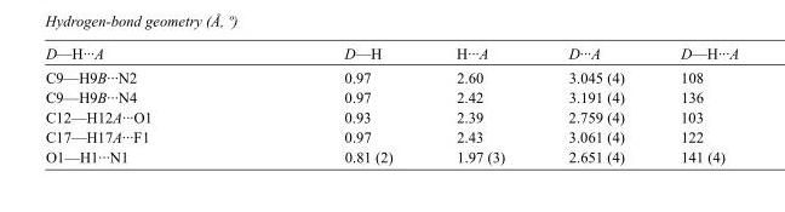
<table><tbody><tr><td>D—H···A</td><td>D—H</td><td>H···A</td><td>D···A</td><td>D—H···A</td></tr><tr><td>C9—H9B···N2</td><td>0.97</td><td>2.60</td><td>3.045 (4)</td><td>108</td></tr><tr><td>C9—H9B···N4</td><td>0.97</td><td>2.42</td><td>3.191 (4)</td><td>136</td></tr><tr><td>C12—H12A···O1</td><td>0.93</td><td>2.39</td><td>2.759 (4)</td><td>103</td></tr><tr><td>C17—H17A···F1</td><td>0.97</td><td>2.43</td><td>3.061 (4)</td><td>122</td></tr><tr><td>O1—H1···N1</td><td>0.81 (2)</td><td>1.97 (3)</td><td>2.651 (4)</td><td>141 (4)</td></tr></tbody></table>